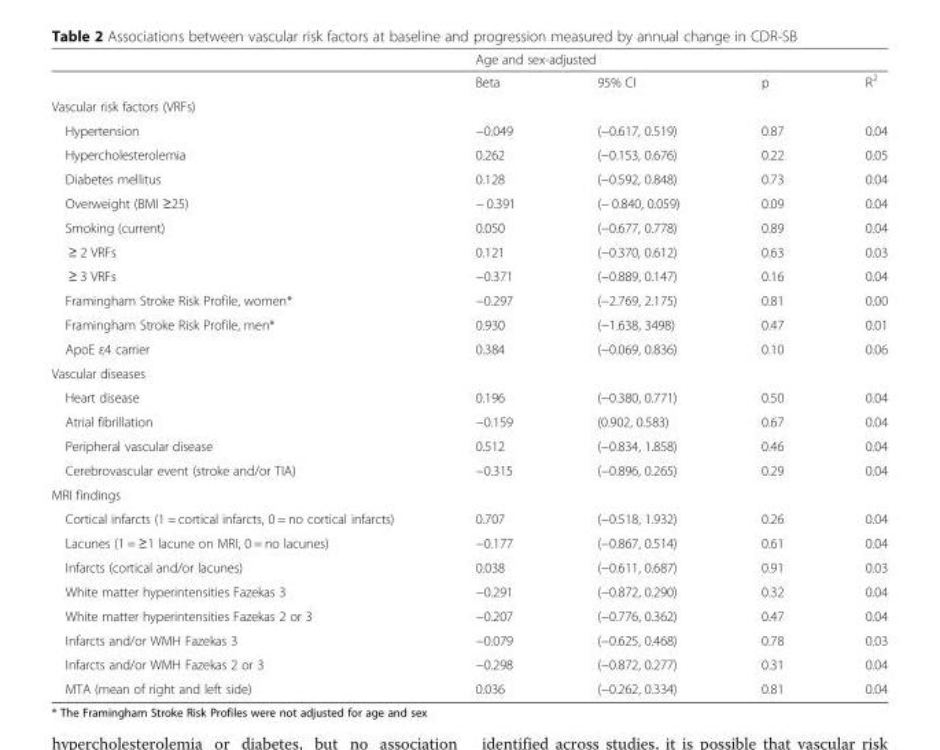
<table><thead><tr><td rowspan="2"></td><td colspan="4">Age and sex-adjusted</td></tr><tr><td>Beta</td><td>95% CI</td><td>p</td><td>R<sup>2</sup></td></tr></thead><tbody><tr><td colspan="5">Vascular risk factors (VRFs)</td></tr><tr><td>Hypertension</td><td>−0.049</td><td>(−0.617, 0.519)</td><td>0.87</td><td>0.04</td></tr><tr><td>Hypercholesterolemia</td><td>0.262</td><td>(−0.153, 0.676)</td><td>0.22</td><td>0.05</td></tr><tr><td>Diabetes mellitus</td><td>0.128</td><td>(−0.592, 0.848)</td><td>0.73</td><td>0.04</td></tr><tr><td>Overweight (BMI ≥25)</td><td>− 0.391</td><td>(− 0.840, 0.059)</td><td>0.09</td><td>0.04</td></tr><tr><td>Smoking (current)</td><td>0.050</td><td>(−0.677, 0.778)</td><td>0.89</td><td>0.04</td></tr><tr><td>≥ 2 VRFs</td><td>0.121</td><td>(−0.370, 0.612)</td><td>0.63</td><td>0.03</td></tr><tr><td>≥ 3 VRFs</td><td>−0.371</td><td>(−0.889, 0.147)</td><td>0.16</td><td>0.04</td></tr><tr><td>Framingham Stroke Risk Profile, women*</td><td>−0.297</td><td>(−2.769, 2.175)</td><td>0.81</td><td>0.00</td></tr><tr><td>Framingham Stroke Risk Profile, men*</td><td>0.930</td><td>(−1.638, 3498)</td><td>0.47</td><td>0.01</td></tr><tr><td>ApoE ε4 carrier</td><td>0.384</td><td>(−0.069, 0.836)</td><td>0.10</td><td>0.06</td></tr><tr><td colspan="5">Vascular diseases</td></tr><tr><td>Heart disease</td><td>0.196</td><td>(−0.380, 0.771)</td><td>0.50</td><td>0.04</td></tr><tr><td>Atrial fibrillation</td><td>−0.159</td><td>(0.902, 0.583)</td><td>0.67</td><td>0.04</td></tr><tr><td>Peripheral vascular disease</td><td>0.512</td><td>(−0.834, 1.858)</td><td>0.46</td><td>0.04</td></tr><tr><td>Cerebrovascular event (stroke and/or TIA)</td><td>−0.315</td><td>(−0.896, 0.265)</td><td>0.29</td><td>0.04</td></tr><tr><td colspan="5">MRI findings</td></tr><tr><td>Cortical infarcts (1 = cortical infarcts, 0 = no cortical infarcts)</td><td>0.707</td><td>(−0.518, 1.932)</td><td>0.26</td><td>0.04</td></tr><tr><td>Lacunes (1 = ≥1 lacune on MRI, 0 = no lacunes)</td><td>−0.177</td><td>(−0.867, 0.514)</td><td>0.61</td><td>0.04</td></tr><tr><td>Infarcts (cortical and/or lacunes)</td><td>0.038</td><td>(−0.611, 0.687)</td><td>0.91</td><td>0.03</td></tr><tr><td>White matter hyperintensities Fazekas 3</td><td>−0.291</td><td>(−0.872, 0.290)</td><td>0.32</td><td>0.04</td></tr><tr><td>White matter hyperintensities Fazekas 2 or 3</td><td>−0.207</td><td>(−0.776, 0.362)</td><td>0.47</td><td>0.04</td></tr><tr><td>Infarcts and/or WMH Fazekas 3</td><td>−0.079</td><td>(−0.625, 0.468)</td><td>0.78</td><td>0.03</td></tr><tr><td>Infarcts and/or WMH Fazekas 2 or 3</td><td>−0.298</td><td>(−0.872, 0.277)</td><td>0.31</td><td>0.04</td></tr><tr><td>MTA (mean of right and left side)</td><td>0.036</td><td>(−0.262, 0.334)</td><td>0.81</td><td>0.04</td></tr></tbody></table>